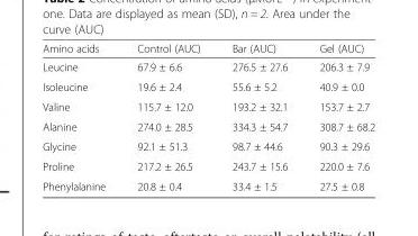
<table><thead><tr><td>Amino acids</td><td>Control (AUC)</td><td>Bar (AUC)</td><td>Gel (AUC)</td></tr></thead><tbody><tr><td>Leucine</td><td>67.9 ± 6.6</td><td>276.5 ± 27.6</td><td>206.3 ± 7.9</td></tr><tr><td>Isoleucine</td><td>19.6 ± 2.4</td><td>55.6 ± 5.2</td><td>40.9 ± 0.0</td></tr><tr><td>Valine</td><td>115.7 ± 12.0</td><td>193.2 ± 32.1</td><td>153.7 ± 2.7</td></tr><tr><td>Alanine</td><td>274.0 ± 28.5</td><td>334.3 ± 54.7</td><td>308.7 ± 68.2</td></tr><tr><td>Glycine</td><td>92.1 ± 51.3</td><td>98.7 ± 44.6</td><td>90.3 ± 29.6</td></tr><tr><td>Proline</td><td>217.2 ± 26.5</td><td>243.7 ± 15.6</td><td>220.0 ± 7.6</td></tr><tr><td>Phenylalanine</td><td>20.8 ± 0.4</td><td>33.4 ± 1.5</td><td>27.5 ± 0.8</td></tr></tbody></table>